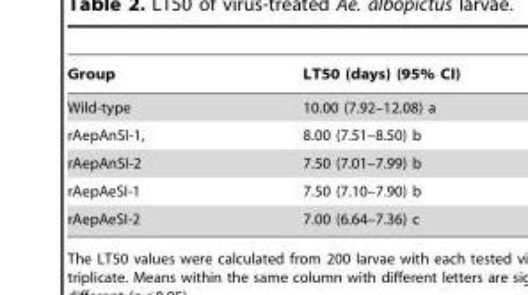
<table><thead><tr><td>Group</td><td>LT50 (days) (95% CI)</td></tr></thead><tbody><tr><td>Wild-type</td><td>10.00 (7.92–12.08) a</td></tr><tr><td>rAepAnSI-1,</td><td>8.00 (7.51–8.50) b</td></tr><tr><td>rAepAnSI-2</td><td>7.50 (7.01–7.99) b</td></tr><tr><td>rAepAeSI-1</td><td>7.50 (7.10–7.90) b</td></tr><tr><td>rAepAeSI-2</td><td>7.00 (6.64–7.36) c</td></tr></tbody></table>